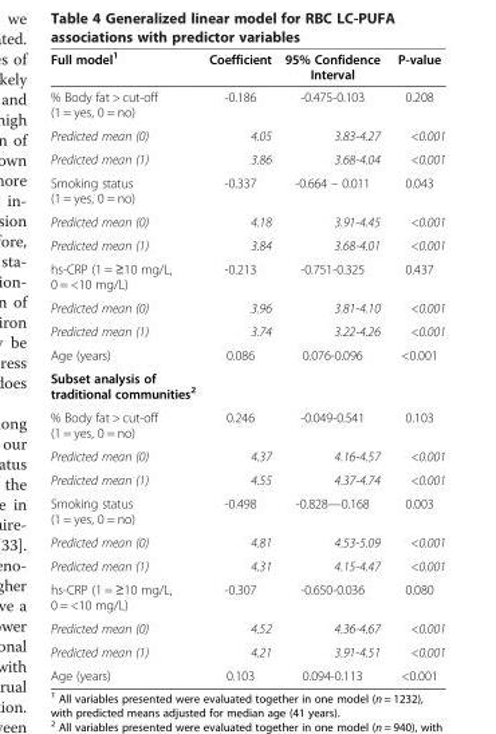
<table><thead><tr><td>Full model<sup>1</sup></td><td>Coefficient</td><td>95% Confidence Interval</td><td>P-value</td></tr></thead><tbody><tr><td>% Body fat &gt; cut-off (1 = yes, 0 = no)</td><td>-0.186</td><td>-0.475-0.103</td><td>0.208</td></tr><tr><td>Predicted mean (0)</td><td>4.05</td><td>3.83-4.27</td><td>&lt;0.001</td></tr><tr><td>Predicted mean (1)</td><td>3.86</td><td>3.68-4.04</td><td>&lt;0.001</td></tr><tr><td>Smoking status (1 = yes, 0 = no)</td><td>-0.337</td><td>-0.664 – 0.011</td><td>0.043</td></tr><tr><td>Predicted mean (0)</td><td>4.18</td><td>3.91-4.45</td><td>&lt;0.001</td></tr><tr><td>Predicted mean (1)</td><td>3.84</td><td>3.68-4.01</td><td>&lt;0.001</td></tr><tr><td>hs-CRP (1 = ≥10 mg/L, 0 = &lt;10 mg/L)</td><td>-0.213</td><td>-0.751-0.325</td><td>0.437</td></tr><tr><td>Predicted mean (0)</td><td>3.96</td><td>3.81-4.10</td><td>&lt;0.001</td></tr><tr><td>Predicted mean (1)</td><td>3.74</td><td>3.22-4.26</td><td>&lt;0.001</td></tr><tr><td>Age (years)</td><td>0.086</td><td>0.076-0.096</td><td>&lt;0.001</td></tr><tr><td colspan="4">Subset analysis of traditional communities<sup>2</sup></td></tr><tr><td>% Body fat &gt; cut-off (1 = yes, 0 = no)</td><td>0.246</td><td>-0.049-0.541</td><td>0.103</td></tr><tr><td>Predicted mean (0)</td><td>4.37</td><td>4.16-4.57</td><td>&lt;0.001</td></tr><tr><td>Predicted mean (1)</td><td>4.55</td><td>4.37-4.74</td><td>&lt;0.001</td></tr><tr><td>Smoking status (1 = yes, 0 = no)</td><td>-0.498</td><td>-0.828—0.168</td><td>0.003</td></tr><tr><td>Predicted mean (0)</td><td>4.81</td><td>4.53-5.09</td><td>&lt;0.001</td></tr><tr><td>Predicted mean (1)</td><td>4.31</td><td>4.15-4.47</td><td>&lt;0.001</td></tr><tr><td>hs-CRP (1 = ≥10 mg/L, 0 = &lt;10 mg/L)</td><td>-0.307</td><td>-0.650-0.036</td><td>0.080</td></tr><tr><td>Predicted mean (0)</td><td>4.52</td><td>4.36-4.67</td><td>&lt;0.001</td></tr><tr><td>Predicted mean (1)</td><td>4.21</td><td>3.91-4.51</td><td>&lt;0.001</td></tr><tr><td>Age (years)</td><td>0.103</td><td>0.094-0.113</td><td>&lt;0.001</td></tr></tbody></table>